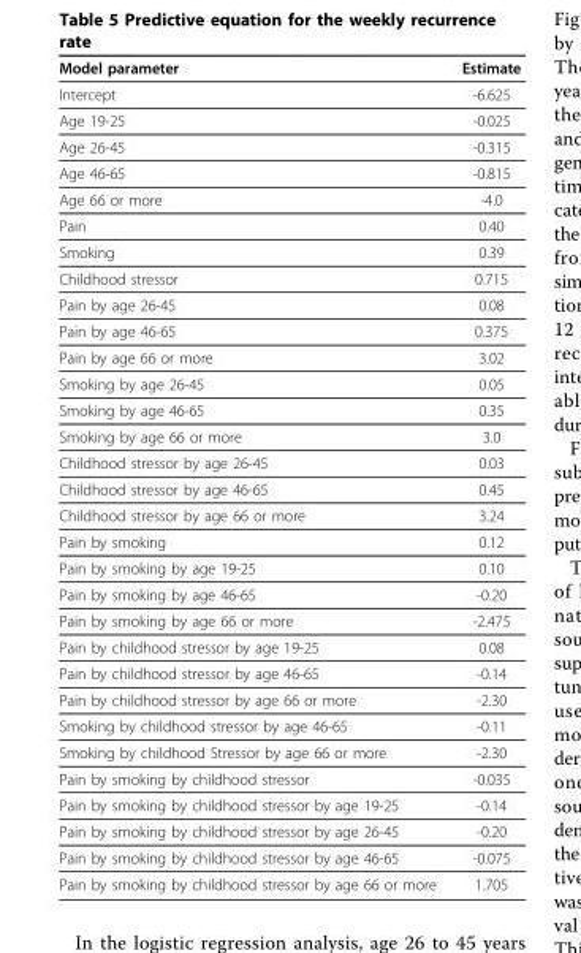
<table><thead><tr><td>Model parameter</td><td>Estimate</td></tr></thead><tbody><tr><td>Intercept</td><td>-6.625</td></tr><tr><td>Age 19-25</td><td>-0.025</td></tr><tr><td>Age 26-45</td><td>-0.315</td></tr><tr><td>Age 46-65</td><td>-0.815</td></tr><tr><td>Age 66 or more</td><td>-4.0</td></tr><tr><td>Pain</td><td>0.40</td></tr><tr><td>Smoking</td><td>0.39</td></tr><tr><td>Childhood stressor</td><td>0.715</td></tr><tr><td>Pain by age 26-45</td><td>0.08</td></tr><tr><td>Pain by age 46-65</td><td>0.375</td></tr><tr><td>Pain by age 66 or more</td><td>3.02</td></tr><tr><td>Smoking by age 26-45</td><td>0.05</td></tr><tr><td>Smoking by age 46-65</td><td>0.35</td></tr><tr><td>Smoking by age 66 or more</td><td>3.0</td></tr><tr><td>Childhood stressor by age 26-45</td><td>0.03</td></tr><tr><td>Childhood stressor by age 46-65</td><td>0.45</td></tr><tr><td>Childhood stressor by age 66 or more</td><td>3.24</td></tr><tr><td>Pain by smoking</td><td>0.12</td></tr><tr><td>Pain by smoking by age 19-25</td><td>0.10</td></tr><tr><td>Pain by smoking by age 46-65</td><td>-0.20</td></tr><tr><td>Pain by smoking by age 66 or more</td><td>-2.475</td></tr><tr><td>Pain by childhood stressor by age 19-25</td><td>0.08</td></tr><tr><td>Pain by childhood stressor by age 46-65</td><td>-0.14</td></tr><tr><td>Pain by childhood stressor by age 66 or more</td><td>-2.30</td></tr><tr><td>Smoking by childhood stressor by age 46-65</td><td>-0.11</td></tr><tr><td>Smoking by childhood Stressor by age 66 or more</td><td>-2.30</td></tr><tr><td>Pain by smoking by childhood stressor</td><td>-0.035</td></tr><tr><td>Pain by smoking by childhood stressor by age 19-25</td><td>-0.14</td></tr><tr><td>Pain by smoking by childhood stressor by age 26-45</td><td>-0.20</td></tr><tr><td>Pain by smoking by childhood stressor by age 46-65</td><td>-0.075</td></tr><tr><td>Pain by smoking by childhood stressor by age 66 or more</td><td>1.705</td></tr></tbody></table>